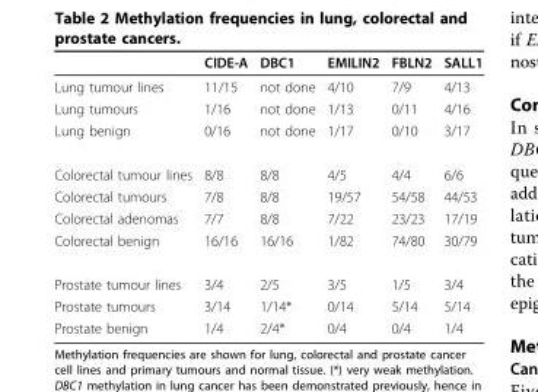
<table><thead><tr><td></td><td>CIDE-A</td><td>DBC1</td><td>EMILIN2</td><td>FBLN2</td><td>SALL1</td></tr></thead><tbody><tr><td>Lung tumour lines</td><td>11/15</td><td>not done</td><td>4/10</td><td>7/9</td><td>4/13</td></tr><tr><td>Lung tumours</td><td>1/16</td><td>not done</td><td>1/13</td><td>0/11</td><td>4/16</td></tr><tr><td>Lung benign</td><td>0/16</td><td>not done</td><td>1/17</td><td>0/10</td><td>3/17</td></tr><tr><td>Colorectal tumour lines</td><td>8/8</td><td>8/8</td><td>4/5</td><td>4/4</td><td>6/6</td></tr><tr><td>Colorectal tumours</td><td>7/8</td><td>8/8</td><td>19/57</td><td>54/58</td><td>44/53</td></tr><tr><td>Colorectal adenomas</td><td>7/7</td><td>8/8</td><td>7/22</td><td>23/23</td><td>17/19</td></tr><tr><td>Colorectal benign</td><td>16/16</td><td>16/16</td><td>1/82</td><td>74/80</td><td>30/79</td></tr><tr><td>Prostate tumour lines</td><td>3/4</td><td>2/5</td><td>3/5</td><td>1/5</td><td>3/4</td></tr><tr><td>Prostate tumours</td><td>3/14</td><td>1/14*</td><td>0/14</td><td>5/14</td><td>5/14</td></tr><tr><td>Prostate benign</td><td>1/4</td><td>2/4*</td><td>0/4</td><td>0/4</td><td>1/4</td></tr></tbody></table>